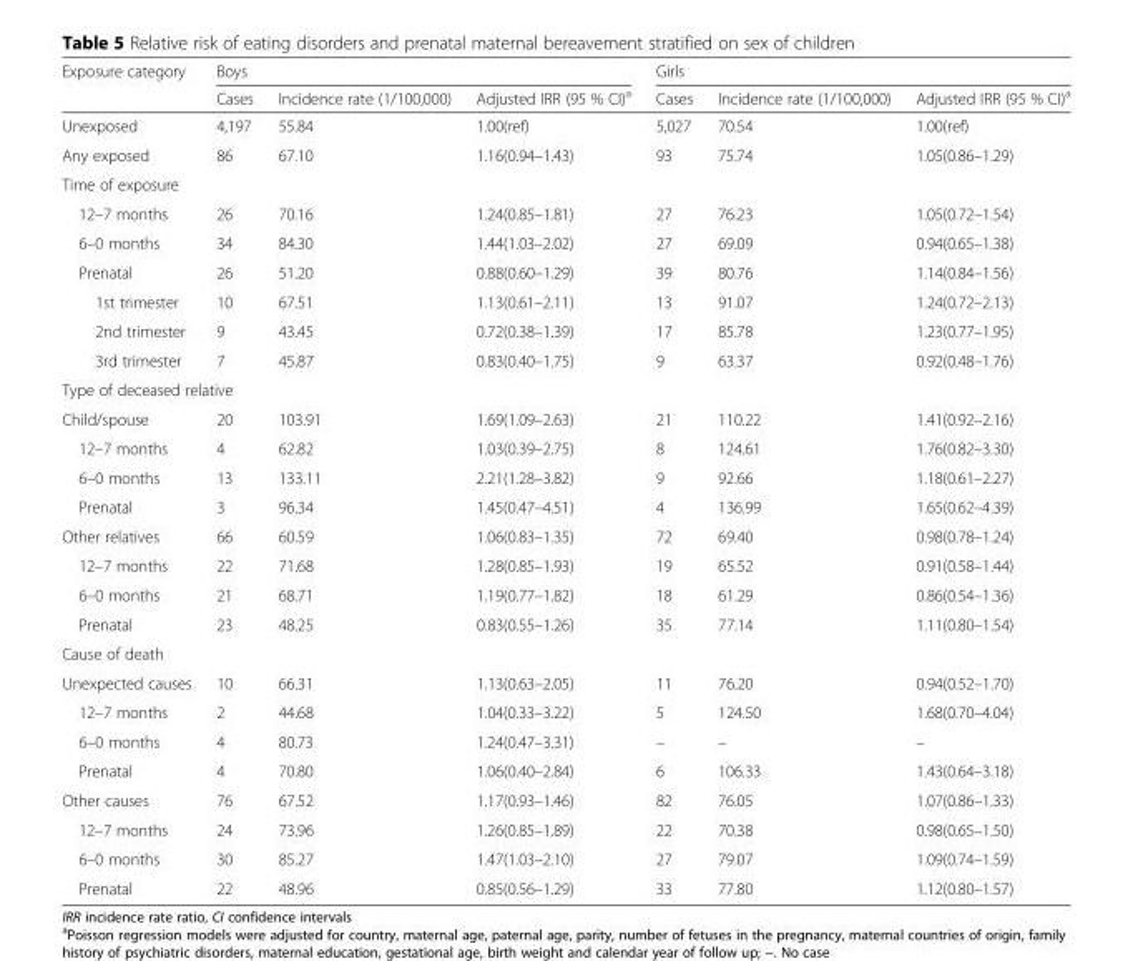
<table><thead><tr><td rowspan="2">Exposure category</td><td colspan="3">Boys</td><td colspan="3">Girls</td></tr><tr><td>Cases</td><td>Incidence rate (1/100,000)</td><td>Adjusted IRR (95 % CI)<sup>a</sup></td><td>Cases</td><td>Incidence rate (1/100,000)</td><td>Adjusted IRR (95 % CI)<sup>a</sup></td></tr></thead><tbody><tr><td>Unexposed</td><td>4,197</td><td>55.84</td><td>1.00(ref)</td><td>5,027</td><td>70.54</td><td>1.00(ref)</td></tr><tr><td>Any exposed</td><td>86</td><td>67.10</td><td>1.16(0.94–1.43)</td><td>93</td><td>75.74</td><td>1.05(0.86–1.29)</td></tr><tr><td colspan="7">Time of exposure</td></tr><tr><td>12–7 months</td><td>26</td><td>70.16</td><td>1.24(0.85–1.81)</td><td>27</td><td>76.23</td><td>1.05(0.72–1.54)</td></tr><tr><td>6–0 months</td><td>34</td><td>84.30</td><td>1.44(1.03–2.02)</td><td>27</td><td>69.09</td><td>0.94(0.65–1.38)</td></tr><tr><td>Prenatal</td><td>26</td><td>51.20</td><td>0.88(0.60–1.29)</td><td>39</td><td>80.76</td><td>1.14(0.84–1.56)</td></tr><tr><td>1st trimester</td><td>10</td><td>67.51</td><td>1.13(0.61–2.11)</td><td>13</td><td>91.07</td><td>1.24(0.72–2.13)</td></tr><tr><td>2nd trimester</td><td>9</td><td>43.45</td><td>0.72(0.38–1.39)</td><td>17</td><td>85.78</td><td>1.23(0.77–1.95)</td></tr><tr><td>3rd trimester</td><td>7</td><td>45.87</td><td>0.83(0.40–1.75)</td><td>9</td><td>63.37</td><td>0.92(0.48–1.76)</td></tr><tr><td colspan="7">Type of deceased relative</td></tr><tr><td>Child/spouse</td><td>20</td><td>103.91</td><td>1.69(1.09–2.63)</td><td>21</td><td>110.22</td><td>1.41(0.92–2.16)</td></tr><tr><td>12–7 months</td><td>4</td><td>62.82</td><td>1.03(0.39–2.75)</td><td>8</td><td>124.61</td><td>1.76(0.82–3.30)</td></tr><tr><td>6–0 months</td><td>13</td><td>133.11</td><td>2.21(1.28–3.82)</td><td>9</td><td>92.66</td><td>1.18(0.61–2.27)</td></tr><tr><td>Prenatal</td><td>3</td><td>96.34</td><td>1.45(0.47–4.51)</td><td>4</td><td>136.99</td><td>1.65(0.62–4.39)</td></tr><tr><td>Other relatives</td><td>66</td><td>60.59</td><td>1.06(0.83–1.35)</td><td>72</td><td>69.40</td><td>0.98(0.78–1.24)</td></tr><tr><td>12–7 months</td><td>22</td><td>71.68</td><td>1.28(0.85–1.93)</td><td>19</td><td>65.52</td><td>0.91(0.58–1.44)</td></tr><tr><td>6–0 months</td><td>21</td><td>68.71</td><td>1.19(0.77–1.82)</td><td>18</td><td>61.29</td><td>0.86(0.54–1.36)</td></tr><tr><td>Prenatal</td><td>23</td><td>48.25</td><td>0.83(0.55–1.26)</td><td>35</td><td>77.14</td><td>1.11(0.80–1.54)</td></tr><tr><td colspan="7">Cause of death</td></tr><tr><td>Unexpected causes</td><td>10</td><td>66.31</td><td>1.13(0.63–2.05)</td><td>11</td><td>76.20</td><td>0.94(0.52–1.70)</td></tr><tr><td>12–7 months</td><td>2</td><td>44.68</td><td>1.04(0.33–3.22)</td><td>5</td><td>124.50</td><td>1.68(0.70–4.04)</td></tr><tr><td>6–0 months</td><td>4</td><td>80.73</td><td>1.24(0.47–3.31)</td><td>–</td><td>–</td><td>–</td></tr><tr><td>Prenatal</td><td>4</td><td>70.80</td><td>1.06(0.40–2.84)</td><td>6</td><td>106.33</td><td>1.43(0.64–3.18)</td></tr><tr><td>Other causes</td><td>76</td><td>67.52</td><td>1.17(0.93–1.46)</td><td>82</td><td>76.05</td><td>1.07(0.86–1.33)</td></tr><tr><td>12–7 months</td><td>24</td><td>73.96</td><td>1.26(0.85–1.89)</td><td>22</td><td>70.38</td><td>0.98(0.65–1.50)</td></tr><tr><td>6–0 months</td><td>30</td><td>85.27</td><td>1.47(1.03–2.10)</td><td>27</td><td>79.07</td><td>1.09(0.74–1.59)</td></tr><tr><td>Prenatal</td><td>22</td><td>48.96</td><td>0.85(0.56–1.29)</td><td>33</td><td>77.80</td><td>1.12(0.80–1.57)</td></tr></tbody></table>